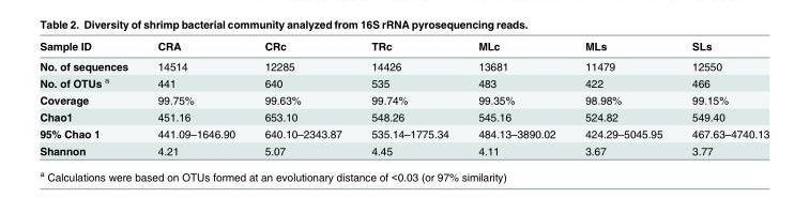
<table><thead><tr><td>Sample ID</td><td>CRA</td><td>CRc</td><td>TRc</td><td>MLc</td><td>MLs</td><td>SLs</td></tr></thead><tbody><tr><td>No. of sequences</td><td>14514</td><td>12285</td><td>14426</td><td>13681</td><td>11479</td><td>12550</td></tr><tr><td>No. of OTUs <sup>a</sup></td><td>441</td><td>640</td><td>535</td><td>483</td><td>422</td><td>466</td></tr><tr><td>Coverage</td><td>99.75%</td><td>99.63%</td><td>99.74%</td><td>99.35%</td><td>98.98%</td><td>99.15%</td></tr><tr><td>Chao1</td><td>451.16</td><td>653.10</td><td>548.26</td><td>545.16</td><td>524.82</td><td>549.40</td></tr><tr><td>95% Chao 1</td><td>441.09–1646.90</td><td>640.10–2343.87</td><td>535.14–1775.34</td><td>484.13–3890.02</td><td>424.29–5045.95</td><td>467.63–4740.13</td></tr><tr><td>Shannon</td><td>4.21</td><td>5.07</td><td>4.45</td><td>4.11</td><td>3.67</td><td>3.77</td></tr></tbody></table>